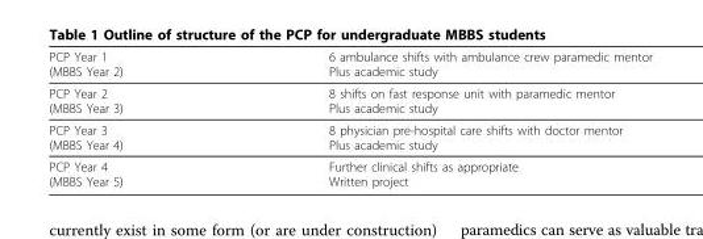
<table><thead><tr><td>PCP Year 1 (MBBS Year 2)</td><td>6 ambulance shifts with ambulance crew paramedic mentor Plus academic study</td></tr></thead><tbody><tr><td>PCP Year 2 (MBBS Year 3)</td><td>8 shifts on fast response unit with paramedic mentor Plus academic study</td></tr><tr><td>PCP Year 3 (MBBS Year 4)</td><td>8 physician pre-hospital care shifts with doctor mentor Plus academic study</td></tr><tr><td>PCP Year 4 (MBBS Year 5)</td><td>Further clinical shifts as appropriate Written project</td></tr></tbody></table>